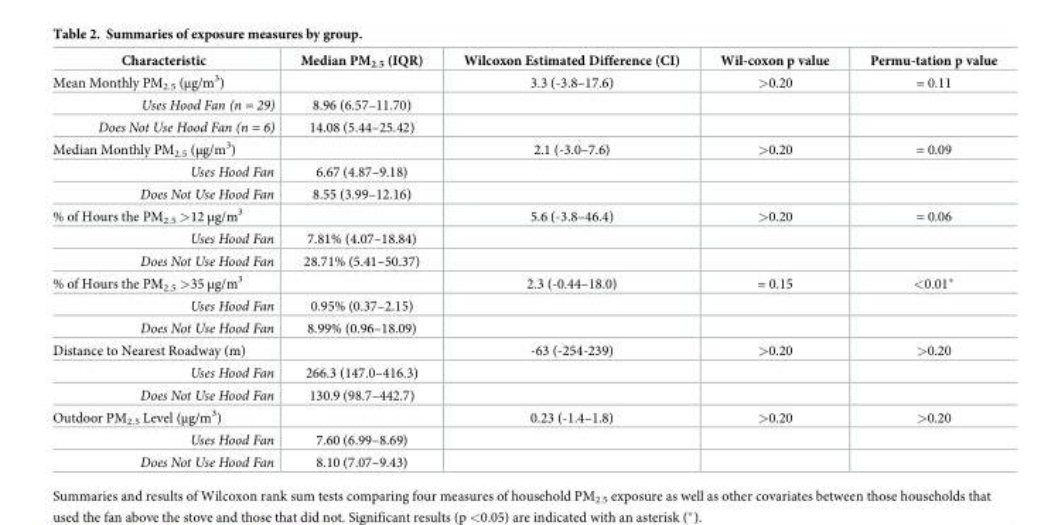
<table><thead><tr><td>Characteristic</td><td>Median PM<sub>2.5</sub> (IQR)</td><td>Wilcoxon Estimated Difference (CI)</td><td>Wil-coxon p value</td><td>Permu-tation p value</td></tr></thead><tbody><tr><td>Mean Monthly PM<sub>2.5</sub> (μg/m<sup>3</sup>)</td><td></td><td>3.3 (-3.8–17.6)</td><td>&gt;0.20</td><td>= 0.11</td></tr><tr><td>Uses Hood Fan (n = 29)</td><td>8.96 (6.57–11.70)</td><td></td><td></td><td></td></tr><tr><td>Does Not Use Hood Fan (n = 6)</td><td>14.08 (5.44–25.42)</td><td></td><td></td><td></td></tr><tr><td>Median Monthly PM<sub>2.5</sub> (μg/m<sup>3</sup>)</td><td></td><td>2.1 (-3.0–7.6)</td><td>&gt;0.20</td><td>= 0.09</td></tr><tr><td>Uses Hood Fan</td><td>6.67 (4.87–9.18)</td><td></td><td></td><td></td></tr><tr><td>Does Not Use Hood Fan</td><td>8.55 (3.99–12.16)</td><td></td><td></td><td></td></tr><tr><td>% of Hours the PM<sub>2.5</sub> &gt;12 μg/m<sup>3</sup></td><td></td><td>5.6 (-3.8–46.4)</td><td>&gt;0.20</td><td>= 0.06</td></tr><tr><td>Uses Hood Fan</td><td>7.81% (4.07–18.84)</td><td></td><td></td><td></td></tr><tr><td>Does Not Use Hood Fan</td><td>28.71% (5.41–50.37)</td><td></td><td></td><td></td></tr><tr><td>% of Hours the PM<sub>2.5</sub> &gt;35 μg/m<sup>3</sup></td><td></td><td>2.3 (-0.44–18.0)</td><td>= 0.15</td><td>&lt;0.01*</td></tr><tr><td>Uses Hood Fan</td><td>0.95% (0.37–2.15)</td><td></td><td></td><td></td></tr><tr><td>Does Not Use Hood Fan</td><td>8.99% (0.96–18.09)</td><td></td><td></td><td></td></tr><tr><td>Distance to Nearest Roadway (m)</td><td></td><td>-63 (-254-239)</td><td>&gt;0.20</td><td>&gt;0.20</td></tr><tr><td>Uses Hood Fan</td><td>266.3 (147.0–416.3)</td><td></td><td></td><td></td></tr><tr><td>Does Not Use Hood Fan</td><td>130.9 (98.7–442.7)</td><td></td><td></td><td></td></tr><tr><td>Outdoor PM<sub>2.5</sub> Level (μg/m<sup>3</sup>)</td><td></td><td>0.23 (-1.4–1.8)</td><td>&gt;0.20</td><td>&gt;0.20</td></tr><tr><td>Uses Hood Fan</td><td>7.60 (6.99–8.69)</td><td></td><td></td><td></td></tr><tr><td>Does Not Use Hood Fan</td><td>8.10 (7.07–9.43)</td><td></td><td></td><td></td></tr></tbody></table>